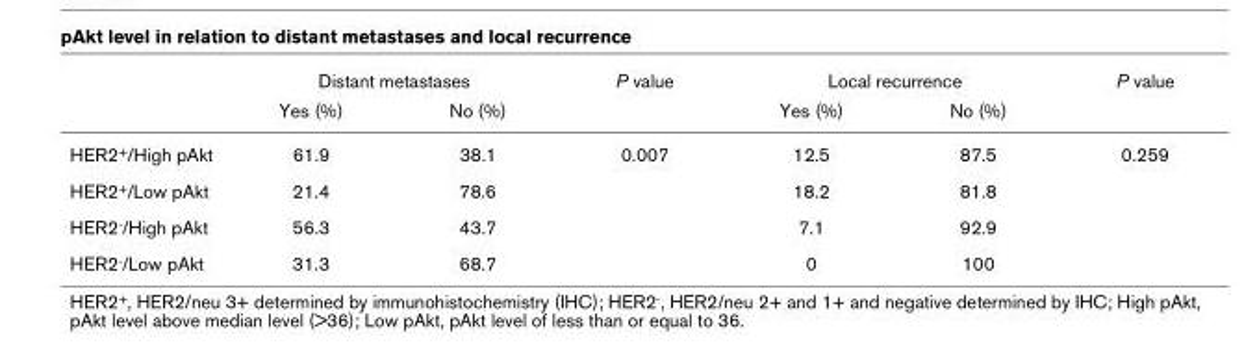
<table><thead><tr><td rowspan="2"></td><td colspan="2">Distant metastases</td><td rowspan="2">P value</td><td colspan="2">Local recurrence</td><td rowspan="2">P value</td></tr><tr><td>Yes (%)</td><td>No (%)</td><td>Yes (%)</td><td>No (%)</td></tr></thead><tbody><tr><td>HER2<sup>+</sup>/High pAkt</td><td>61.9</td><td>38.1</td><td>0.007</td><td>12.5</td><td>87.5</td><td>0.259</td></tr><tr><td>HER2<sup>+</sup>/Low pAkt</td><td>21.4</td><td>78.6</td><td></td><td>18.2</td><td>81.8</td><td></td></tr><tr><td>HER2<sup>-</sup>/High pAkt</td><td>56.3</td><td>43.7</td><td></td><td>7.1</td><td>92.9</td><td></td></tr><tr><td>HER2<sup>-</sup>/Low pAkt</td><td>31.3</td><td>68.7</td><td></td><td>0</td><td>100</td><td></td></tr></tbody></table>